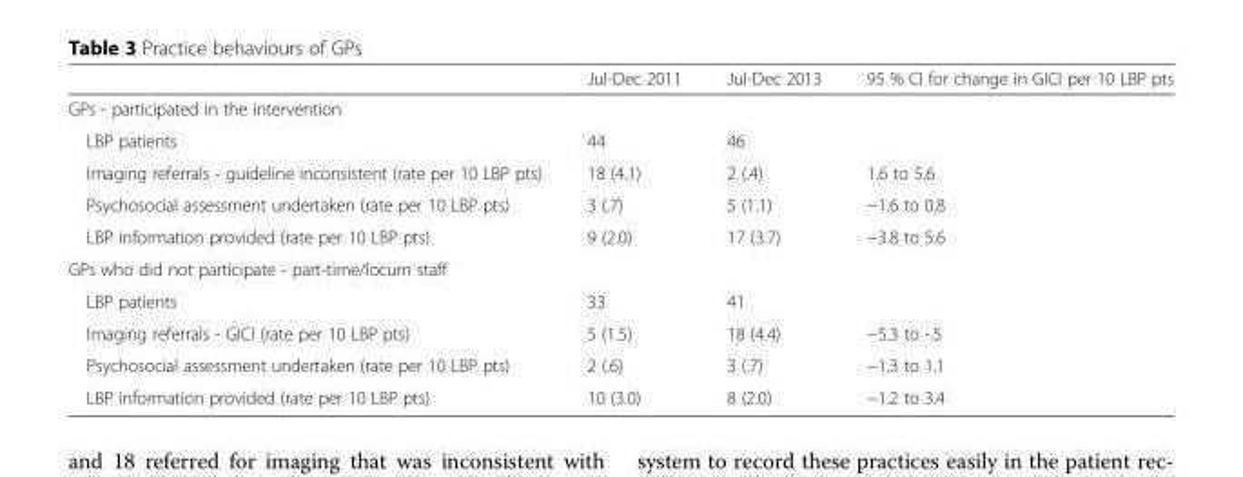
<table><thead><tr><td></td><td>Jul-Dec 2011</td><td>Jul-Dec 2013</td><td>95 % CI for change in GICI per 10 LBP pts</td></tr></thead><tbody><tr><td colspan="4">GPs - participated in the intervention</td></tr><tr><td>LBP patients</td><td>44</td><td>46</td><td></td></tr><tr><td>Imaging referrals - guideline inconsistent (rate per 10 LBP pts)</td><td>18 (4.1)</td><td>2 (.4)</td><td>1.6 to 5.6</td></tr><tr><td>Psychosocial assessment undertaken (rate per 10 LBP pts)</td><td>3 (.7)</td><td>5 (1.1)</td><td>−1.6 to 0.8</td></tr><tr><td>LBP information provided (rate per 10 LBP pts)</td><td>9 (2.0)</td><td>17 (3.7)</td><td>−3.8 to 5.6</td></tr><tr><td colspan="4">GPs who did not participate - part-time/locum staff</td></tr><tr><td>LBP patients</td><td>33</td><td>41</td><td></td></tr><tr><td>Imaging referrals - GICI (rate per 10 LBP pts)</td><td>5 (1.5)</td><td>18 (4.4)</td><td>−5.3 to -.5</td></tr><tr><td>Psychosocial assessment undertaken (rate per 10 LBP pts)</td><td>2 (.6)</td><td>3 (.7)</td><td>−1.3 to 1.1</td></tr><tr><td>LBP information provided (rate per 10 LBP pts)</td><td>10 (3.0)</td><td>8 (2.0)</td><td>−1.2 to 3.4</td></tr></tbody></table>